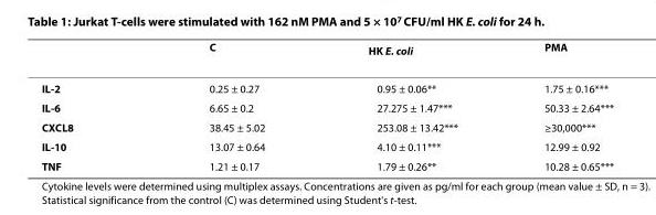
<table><thead><tr><td></td><td>C</td><td>HK E. coli</td><td>PMA</td></tr></thead><tbody><tr><td>IL-2</td><td>0.25 ± 0.27</td><td>0.95 ± 0.06**</td><td>1.75 ± 0.16***</td></tr><tr><td>IL-6</td><td>6.65 ± 0.2</td><td>27.275 ± 1.47***</td><td>50.33 ± 2.64***</td></tr><tr><td>CXCL8</td><td>38.45 ± 5.02</td><td>253.08 ± 13.42***</td><td>≥30,000***</td></tr><tr><td>IL-10</td><td>13.07 ± 0.64</td><td>4.10 ± 0.11***</td><td>12.99 ± 0.92</td></tr><tr><td>TNF</td><td>1.21 ± 0.17</td><td>1.79 ± 0.26**</td><td>10.28 ± 0.65***</td></tr></tbody></table>